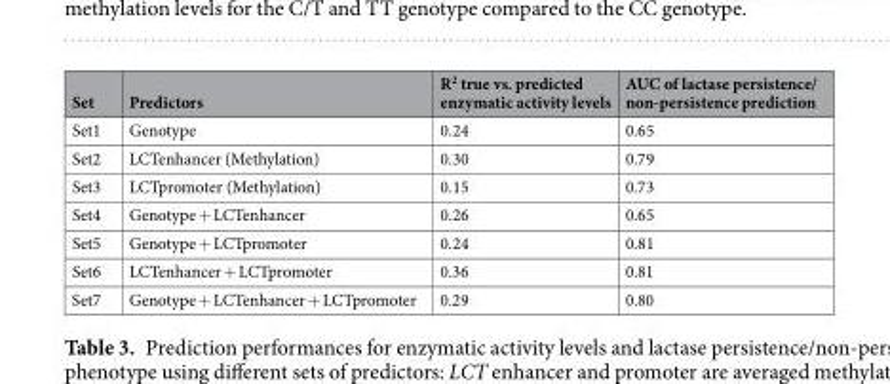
<table><thead><tr><td>Set</td><td>Predictors</td><td>R<sup>2</sup> true vs. predicted enzymatic activity levels</td><td>AUC of lactase persistence/ non-persistence prediction</td></tr></thead><tbody><tr><td>Set1</td><td>Genotype</td><td>0.24</td><td>0.65</td></tr><tr><td>Set2</td><td>LCTenhancer (Methylation)</td><td>0.30</td><td>0.79</td></tr><tr><td>Set3</td><td>LCTpromoter (Methylation)</td><td>0.15</td><td>0.73</td></tr><tr><td>Set4</td><td>Genotype + LCTenhancer</td><td>0.26</td><td>0.65</td></tr><tr><td>Set5</td><td>Genotype + LCTpromoter</td><td>0.24</td><td>0.81</td></tr><tr><td>Set6</td><td>LCTenhancer + LCTpromoter</td><td>0.36</td><td>0.81</td></tr><tr><td>Set7</td><td>Genotype + LCTenhancer + LCTpromoter</td><td>0.29</td><td>0.80</td></tr></tbody></table>